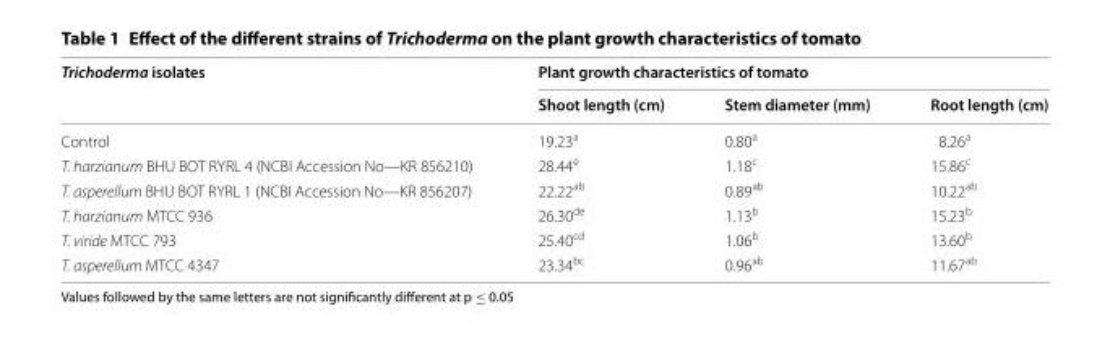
<table><thead><tr><td rowspan="2">Trichoderma isolates</td><td colspan="3">Plant growth characteristics of tomato</td></tr><tr><td>Shoot length (cm)</td><td>Stem diameter (mm)</td><td>Root length (cm)</td></tr></thead><tbody><tr><td>Control</td><td>19.23<sup>a</sup></td><td>0.80<sup>a</sup></td><td>8.26<sup>a</sup></td></tr><tr><td>T. harzianum BHU BOT RYRL 4 (NCBI Accession No—KR 856210)</td><td>28.44<sup>e</sup></td><td>1.18<sup>c</sup></td><td>15.86<sup>c</sup></td></tr><tr><td>T. asperellum BHU BOT RYRL 1 (NCBI Accession No—KR 856207)</td><td>22.22<sup>ab</sup></td><td>0.89<sup>ab</sup></td><td>10.22<sup>ab</sup></td></tr><tr><td>T. harzianum MTCC 936</td><td>26.30<sup>de</sup></td><td>1.13<sup>b</sup></td><td>15.23<sup>b</sup></td></tr><tr><td>T. viride MTCC 793</td><td>25.40<sup>cd</sup></td><td>1.06<sup>b</sup></td><td>13.60<sup>b</sup></td></tr><tr><td>T. asperellum MTCC 4347</td><td>23.34<sup>bc</sup></td><td>0.96<sup>ab</sup></td><td>11.67<sup>ab</sup></td></tr></tbody></table>